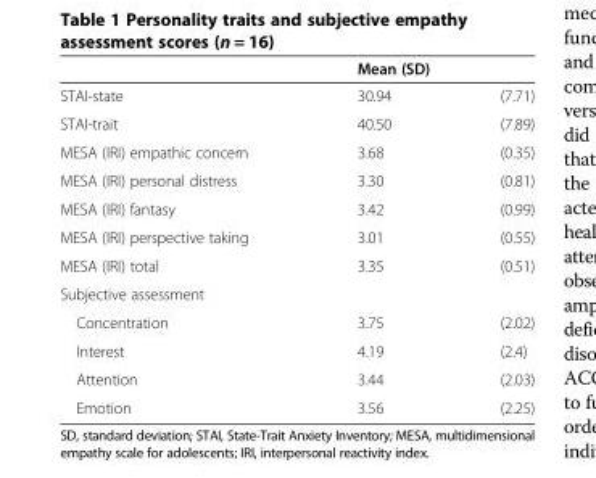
<table><thead><tr><td rowspan="2">STAI-state</td><td colspan="2">Mean (SD)</td></tr><tr><td>30.94</td><td>(7.71)</td></tr></thead><tbody><tr><td>STAI-trait</td><td>40.50</td><td>(7.89)</td></tr><tr><td>MESA (IRI) empathic concern</td><td>3.68</td><td>(0.35)</td></tr><tr><td>MESA (IRI) personal distress</td><td>3.30</td><td>(0.81)</td></tr><tr><td>MESA (IRI) fantasy</td><td>3.42</td><td>(0.99)</td></tr><tr><td>MESA (IRI) perspective taking</td><td>3.01</td><td>(0.55)</td></tr><tr><td>MESA (IRI) total</td><td>3.35</td><td>(0.51)</td></tr><tr><td colspan="3">Subjective assessment</td></tr><tr><td>Concentration</td><td>3.75</td><td>(2.02)</td></tr><tr><td>Interest</td><td>4.19</td><td>(2.4)</td></tr><tr><td>Attention</td><td>3.44</td><td>(2.03)</td></tr><tr><td>Emotion</td><td>3.56</td><td>(2.25)</td></tr></tbody></table>